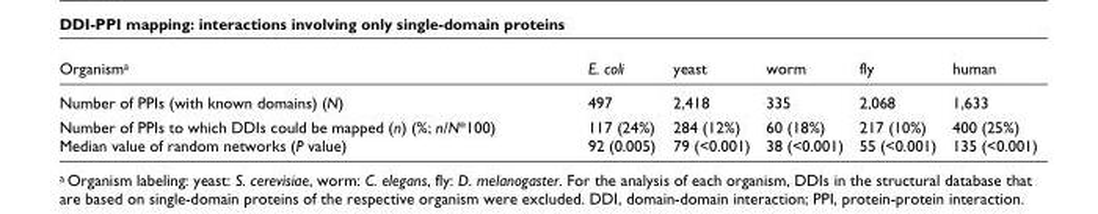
<table><thead><tr><td>Organisma</td><td>E. coli</td><td>yeast</td><td>worm</td><td>fly</td><td>human</td></tr></thead><tbody><tr><td>Number of PPIs (with known domains) (N)</td><td>497</td><td>2,418</td><td>335</td><td>2,068</td><td>1,633</td></tr><tr><td>Number of PPIs to which DDIs could be mapped (n) (%; n/N*100) Median value of random networks (P value)</td><td>117 (24%) 92 (0.005)</td><td>284 (12%) 79 (&lt;0.001)</td><td>60 (18%) 38 (&lt;0.001)</td><td>217 (10%) 55 (&lt;0.001)</td><td>400 (25%) 135 (&lt;0.001)</td></tr></tbody></table>